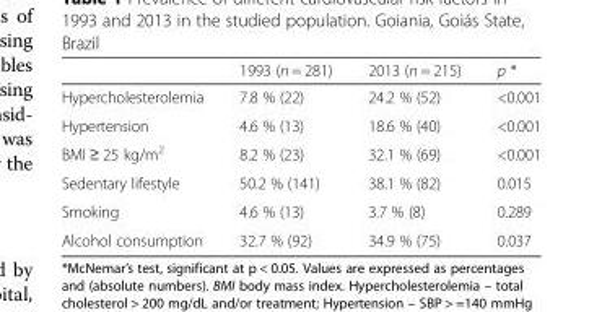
<table><thead><tr><td></td><td>1993 (n = 281)</td><td>2013 (n = 215)</td><td>p *</td></tr></thead><tbody><tr><td>Hypercholesterolemia</td><td>7.8 % (22)</td><td>24.2 % (52)</td><td>&lt;0.001</td></tr><tr><td>Hypertension</td><td>4.6 % (13)</td><td>18.6 % (40)</td><td>&lt;0.001</td></tr><tr><td>BMI ≥ 25 kg/m<sup>2</sup></td><td>8.2 % (23)</td><td>32.1 % (69)</td><td>&lt;0.001</td></tr><tr><td>Sedentary lifestyle</td><td>50.2 % (141)</td><td>38.1 % (82)</td><td>0.015</td></tr><tr><td>Smoking</td><td>4.6 % (13)</td><td>3.7 % (8)</td><td>0.289</td></tr><tr><td>Alcohol consumption</td><td>32.7 % (92)</td><td>34.9 % (75)</td><td>0.037</td></tr></tbody></table>